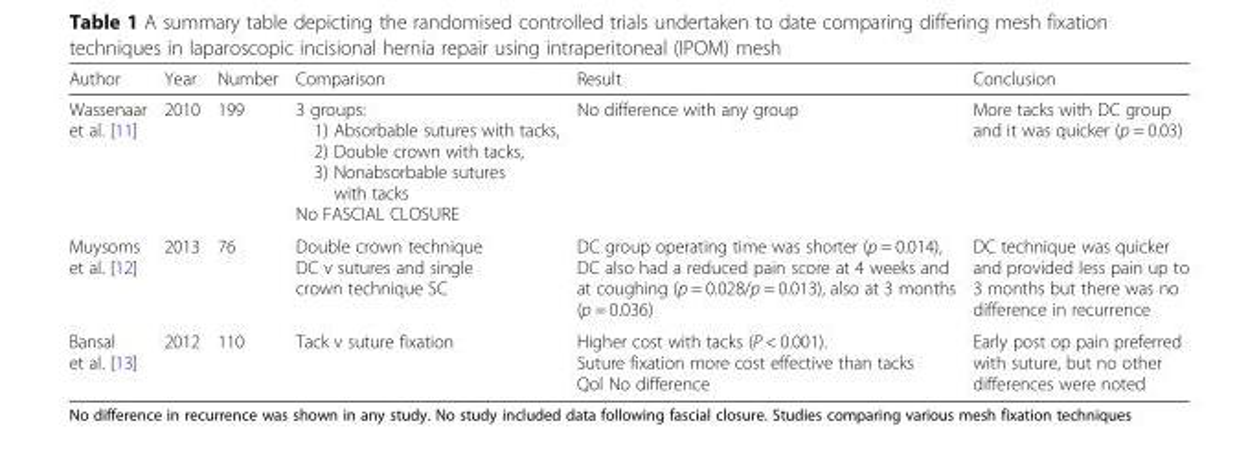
<table><thead><tr><td>Author</td><td>Year</td><td>Number</td><td>Comparison</td><td>Result</td><td>Conclusion</td></tr></thead><tbody><tr><td>Wassenaar et al. [11]</td><td>2010</td><td>199</td><td>3 groups: 1) Absorbable sutures with tacks, 2) Double crown with tacks, 3) Nonabsorbable sutures with tacks No FASCIAL CLOSURE</td><td>No difference with any group</td><td>More tacks with DC group and it was quicker (p = 0.03)</td></tr><tr><td>Muysoms et al. [12]</td><td>2013</td><td>76</td><td>Double crown technique DC v sutures and single crown technique SC</td><td>DC group operating time was shorter (p = 0.014), DC also had a reduced pain score at 4 weeks and at coughing (p = 0.028/p = 0.013), also at 3 months (p = 0.036)</td><td>DC technique was quicker and provided less pain up to 3 months but there was no difference in recurrence</td></tr><tr><td>Bansal et al. [13]</td><td>2012</td><td>110</td><td>Tack v suture fixation</td><td>Higher cost with tacks (P &lt; 0.001). Suture fixation more cost effective than tacks Qol No difference</td><td>Early post op pain preferred with suture, but no other differences were noted</td></tr></tbody></table>